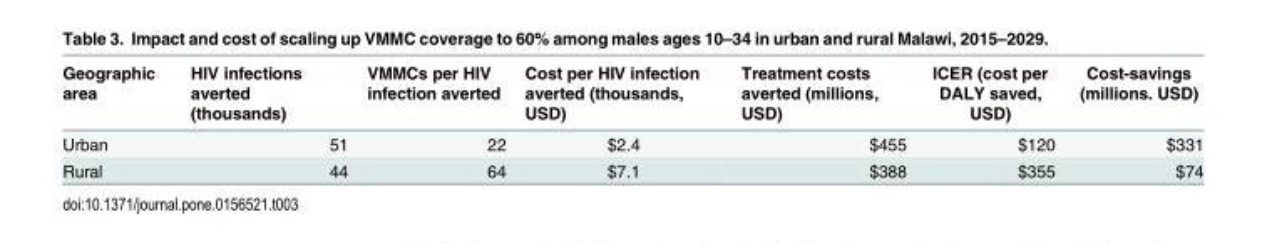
<table><thead><tr><td>Geographic area</td><td>HIV infections averted (thousands)</td><td>VMMCs per HIV infection averted</td><td>Cost per HIV infection averted (thousands, USD)</td><td>Treatment costs averted (millions, USD)</td><td>ICER (cost per DALY saved, USD)</td><td>Cost-savings (millions. USD)</td></tr></thead><tbody><tr><td>Urban</td><td>51</td><td>22</td><td>$2.4</td><td>$455</td><td>$120</td><td>$331</td></tr><tr><td>Rural</td><td>44</td><td>64</td><td>$7.1</td><td>$388</td><td>$355</td><td>$74</td></tr></tbody></table>